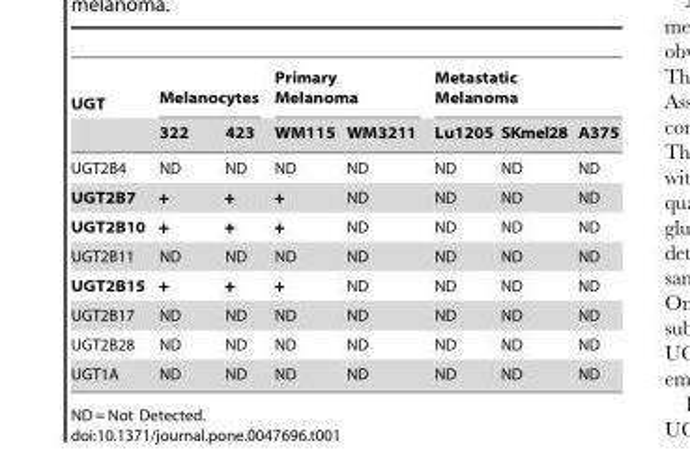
<table><thead><tr><td rowspan="2">UGT</td><td colspan="2">Melanocytes</td><td colspan="2">Primary Melanoma</td><td colspan="3">Metastatic Melanoma</td></tr><tr><td>322</td><td>423</td><td>WM115</td><td>WM3211</td><td>Lu1205</td><td>SKmel28</td><td>A375</td></tr></thead><tbody><tr><td>UGT2B4</td><td>ND</td><td>ND</td><td>ND</td><td>ND</td><td>ND</td><td>ND</td><td>ND</td></tr><tr><td>UGT2B7</td><td>+</td><td>+</td><td>+</td><td>ND</td><td>ND</td><td>ND</td><td>ND</td></tr><tr><td>UGT2B10</td><td>+</td><td>+</td><td>+</td><td>ND</td><td>ND</td><td>ND</td><td>ND</td></tr><tr><td>UGT2B11</td><td>ND</td><td>ND</td><td>ND</td><td>ND</td><td>ND</td><td>ND</td><td>ND</td></tr><tr><td>UGT2B15</td><td>+</td><td>+</td><td>+</td><td>ND</td><td>ND</td><td>ND</td><td>ND</td></tr><tr><td>UGT2B17</td><td>ND</td><td>ND</td><td>ND</td><td>ND</td><td>ND</td><td>ND</td><td>ND</td></tr><tr><td>UGT2B28</td><td>ND</td><td>ND</td><td>ND</td><td>ND</td><td>ND</td><td>ND</td><td>ND</td></tr><tr><td>UGT1A</td><td>ND</td><td>ND</td><td>ND</td><td>ND</td><td>ND</td><td>ND</td><td>ND</td></tr></tbody></table>